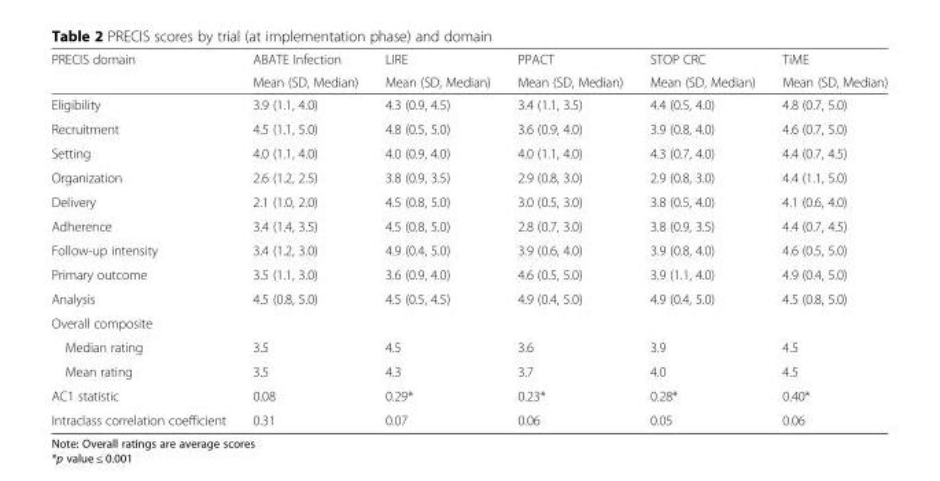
<table><thead><tr><td rowspan="2">PRECIS domain</td><td rowspan="2">ABATE Infection Mean (SD, Median)</td><td rowspan="2">LIRE Mean (SD, Median)</td><td rowspan="2">PPACT Mean (SD, Median)</td><td rowspan="2">STOP CRC Mean (SD, Median)</td><td rowspan="2">TiME Mean (SD, Median)</td></tr><tr></tr></thead><tbody><tr><td>Eligibility</td><td>3.9 (1.1, 4.0)</td><td>4.3 (0.9, 4.5)</td><td>3.4 (1.1, 3.5)</td><td>4.4 (0.5, 4.0)</td><td>4.8 (0.7, 5.0)</td></tr><tr><td>Recruitment</td><td>4.5 (1.1, 5.0)</td><td>4.8 (0.5, 5.0)</td><td>3.6 (0.9, 4.0)</td><td>3.9 (0.8, 4.0)</td><td>4.6 (0.7, 5.0)</td></tr><tr><td>Setting</td><td>4.0 (1.1, 4.0)</td><td>4.0 (0.9, 4.0)</td><td>4.0 (1.1, 4.0)</td><td>4.3 (0.7, 4.0)</td><td>4.4 (0.7, 4.5)</td></tr><tr><td>Organization</td><td>2.6 (1.2, 2.5)</td><td>3.8 (0.9, 3.5)</td><td>2.9 (0.8, 3.0)</td><td>2.9 (0.8, 3.0)</td><td>4.4 (1.1, 5.0)</td></tr><tr><td>Delivery</td><td>2.1 (1.0, 2.0)</td><td>4.5 (0.8, 5.0)</td><td>3.0 (0.5, 3.0)</td><td>3.8 (0.5, 4.0)</td><td>4.1 (0.6, 4.0)</td></tr><tr><td>Adherence</td><td>3.4 (1.4, 3.5)</td><td>4.5 (0.8, 5.0)</td><td>2.8 (0.7, 3.0)</td><td>3.8 (0.9, 3.5)</td><td>4.4 (0.7, 4.5)</td></tr><tr><td>Follow-up intensity</td><td>3.4 (1.2, 3.0)</td><td>4.9 (0.4, 5.0)</td><td>3.9 (0.6, 4.0)</td><td>3.9 (0.8, 4.0)</td><td>4.6 (0.5, 5.0)</td></tr><tr><td>Primary outcome</td><td>3.5 (1.1, 3.0)</td><td>3.6 (0.9, 4.0)</td><td>4.6 (0.5, 5.0)</td><td>3.9 (1.1, 4.0)</td><td>4.9 (0.4, 5.0)</td></tr><tr><td>Analysis</td><td>4.5 (0.8, 5.0)</td><td>4.5 (0.5, 4.5)</td><td>4.9 (0.4, 5.0)</td><td>4.9 (0.4, 5.0)</td><td>4.5 (0.8, 5.0)</td></tr><tr><td colspan="6">Overall composite</td></tr><tr><td>Median rating</td><td>3.5</td><td>4.5</td><td>3.6</td><td>3.9</td><td>4.5</td></tr><tr><td>Mean rating</td><td>3.5</td><td>4.3</td><td>3.7</td><td>4.0</td><td>4.5</td></tr><tr><td>AC1 statistic</td><td>0.08</td><td>0.29*</td><td>0.23*</td><td>0.28*</td><td>0.40*</td></tr><tr><td>Intraclass correlation coefficient</td><td>0.31</td><td>0.07</td><td>0.06</td><td>0.05</td><td>0.06</td></tr></tbody></table>